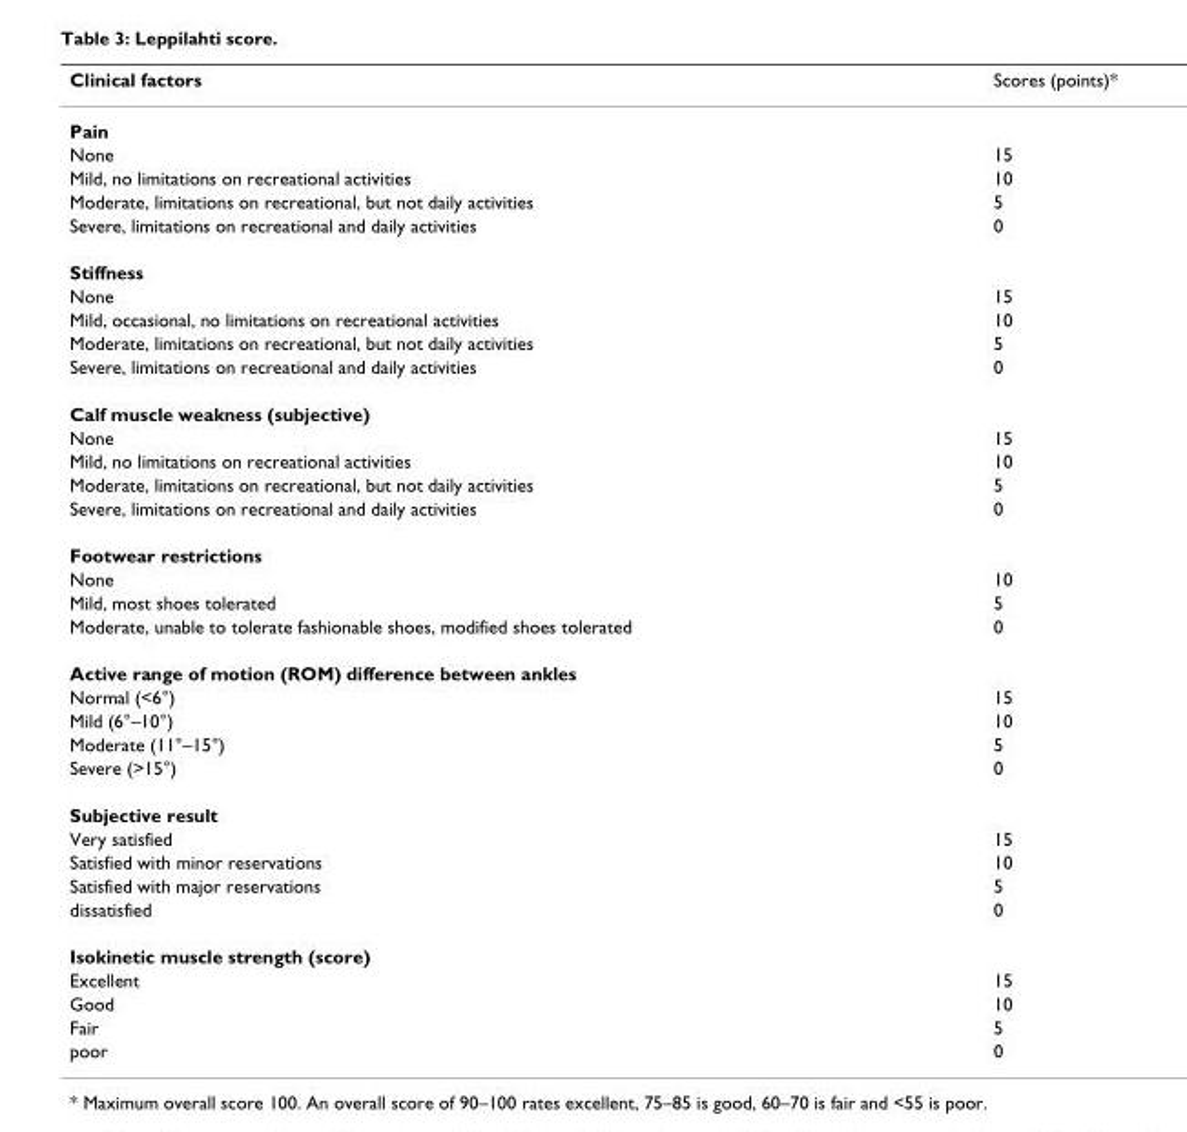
<table><thead><tr><td>Clinical factors</td><td>Scores (points)*</td></tr></thead><tbody><tr><td colspan="2">Pain</td></tr><tr><td>None</td><td>15</td></tr><tr><td>Mild, no limitations on recreational activities</td><td>10</td></tr><tr><td>Moderate, limitations on recreational, but not daily activities</td><td>5</td></tr><tr><td>Severe, limitations on recreational and daily activities</td><td>0</td></tr><tr><td colspan="2">Stiffness</td></tr><tr><td>None</td><td>15</td></tr><tr><td>Mild, occasional, no limitations on recreational activities</td><td>10</td></tr><tr><td>Moderate, limitations on recreational, but not daily activities</td><td>5</td></tr><tr><td>Severe, limitations on recreational and daily activities</td><td>0</td></tr><tr><td colspan="2">Calf muscle weakness (subjective)</td></tr><tr><td>None</td><td>15</td></tr><tr><td>Mild, no limitations on recreational activities</td><td>10</td></tr><tr><td>Moderate, limitations on recreational, but not daily activities</td><td>5</td></tr><tr><td>Severe, limitations on recreational and daily activities</td><td>0</td></tr><tr><td colspan="2">Footwear restrictions</td></tr><tr><td>None</td><td>10</td></tr><tr><td>Mild, most shoes tolerated</td><td>5</td></tr><tr><td>Moderate, unable to tolerate fashionable shoes, modified shoes tolerated</td><td>0</td></tr><tr><td colspan="2">Active range of motion (ROM) difference between ankles</td></tr><tr><td>Normal (&lt;6°)</td><td>15</td></tr><tr><td>Mild (6°–10°)</td><td>10</td></tr><tr><td>Moderate (11°–15°)</td><td>5</td></tr><tr><td>Severe (&gt;15°)</td><td>0</td></tr><tr><td colspan="2">Subjective result</td></tr><tr><td>Very satisfied</td><td>15</td></tr><tr><td>Satisfied with minor reservations</td><td>10</td></tr><tr><td>Satisfied with major reservations</td><td>5</td></tr><tr><td>dissatisfied</td><td>0</td></tr><tr><td colspan="2">Isokinetic muscle strength (score)</td></tr><tr><td>Excellent</td><td>15</td></tr><tr><td>Good</td><td>10</td></tr><tr><td>Fair</td><td>5</td></tr><tr><td>poor</td><td>0</td></tr></tbody></table>